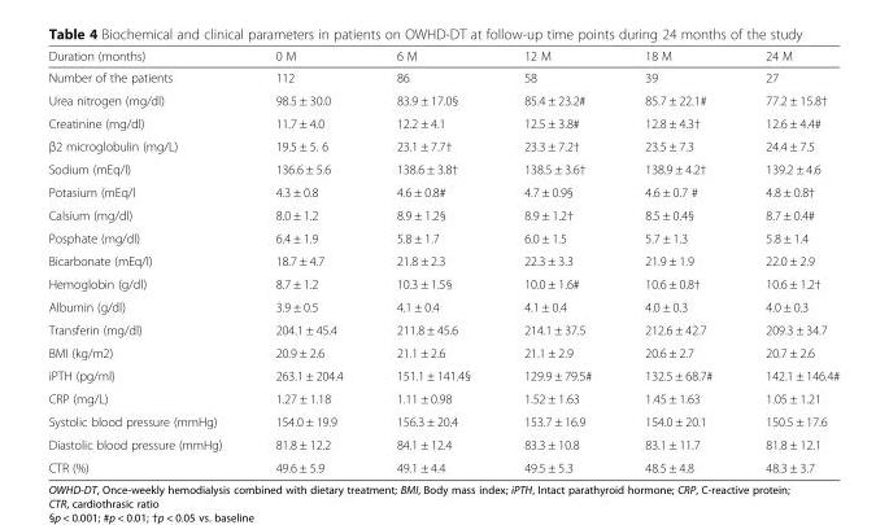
<table><thead><tr><td>Duration (months)</td><td>0 M</td><td>6 M</td><td>12 M</td><td>18 M</td><td>24 M</td></tr></thead><tbody><tr><td>Number of the patients</td><td>112</td><td>86</td><td>58</td><td>39</td><td>27</td></tr><tr><td>Urea nitrogen (mg/dl)</td><td>98.5 ± 30.0</td><td>83.9 ± 17.0§</td><td>85.4 ± 23.2#</td><td>85.7 ± 22.1#</td><td>77.2 ± 15.8†</td></tr><tr><td>Creatinine (mg/dl)</td><td>11.7 ± 4.0</td><td>12.2 ± 4.1</td><td>12.5 ± 3.8#</td><td>12.8 ± 4.3†</td><td>12.6 ± 4.4#</td></tr><tr><td>β2 microglobulin (mg/L)</td><td>19.5 ± 5. 6</td><td>23.1 ± 7.7†</td><td>23.3 ± 7.2†</td><td>23.5 ± 7.3</td><td>24.4 ± 7.5</td></tr><tr><td>Sodium (mEq/l)</td><td>136.6 ± 5.6</td><td>138.6 ± 3.8†</td><td>138.5 ± 3.6†</td><td>138.9 ± 4.2†</td><td>139.2 ± 4.6</td></tr><tr><td>Potasium (mEq/l</td><td>4.3 ± 0.8</td><td>4.6 ± 0.8#</td><td>4.7 ± 0.9§</td><td>4.6 ± 0.7 #</td><td>4.8 ± 0.8†</td></tr><tr><td>Calsium (mg/dl)</td><td>8.0 ± 1.2</td><td>8.9 ± 1.2§</td><td>8.9 ± 1.2†</td><td>8.5 ± 0.4§</td><td>8.7 ± 0.4#</td></tr><tr><td>Posphate (mg/dl)</td><td>6.4 ± 1.9</td><td>5.8 ± 1.7</td><td>6.0 ± 1.5</td><td>5.7 ± 1.3</td><td>5.8 ± 1.4</td></tr><tr><td>Bicarbonate (mEq/l)</td><td>18.7 ± 4.7</td><td>21.8 ± 2.3</td><td>22.3 ± 3.3</td><td>21.9 ± 1.9</td><td>22.0 ± 2.9</td></tr><tr><td>Hemoglobin (g/dl)</td><td>8.7 ± 1.2</td><td>10.3 ± 1.5§</td><td>10.0 ± 1.6#</td><td>10.6 ± 0.8†</td><td>10.6 ± 1.2†</td></tr><tr><td>Albumin (g/dl)</td><td>3.9 ± 0.5</td><td>4.1 ± 0.4</td><td>4.1 ± 0.4</td><td>4.0 ± 0.3</td><td>4.0 ± 0.3</td></tr><tr><td>Transferin (mg/dl)</td><td>204.1 ± 45.4</td><td>211.8 ± 45.6</td><td>214.1 ± 37.5</td><td>212.6 ± 42.7</td><td>209.3 ± 34.7</td></tr><tr><td>BMI (kg/m2)</td><td>20.9 ± 2.6</td><td>21.1 ± 2.6</td><td>21.1 ± 2.9</td><td>20.6 ± 2.7</td><td>20.7 ± 2.6</td></tr><tr><td>iPTH (pg/ml)</td><td>263.1 ± 204.4</td><td>151.1 ± 141.4§</td><td>129.9 ± 79.5#</td><td>132.5 ± 68.7#</td><td>142.1 ± 146.4#</td></tr><tr><td>CRP (mg/L)</td><td>1.27 ± 1.18</td><td>1.11 ± 0.98</td><td>1.52 ± 1.63</td><td>1.45 ± 1.63</td><td>1.05 ± 1.21</td></tr><tr><td>Systolic blood pressure (mmHg)</td><td>154.0 ± 19.9</td><td>156.3 ± 20.4</td><td>153.7 ± 16.9</td><td>154.0 ± 20.1</td><td>150.5 ± 17.6</td></tr><tr><td>Diastolic blood pressure (mmHg)</td><td>81.8 ± 12.2</td><td>84.1 ± 12.4</td><td>83.3 ± 10.8</td><td>83.1 ± 11.7</td><td>81.8 ± 12.1</td></tr><tr><td>CTR (%)</td><td>49.6 ± 5.9</td><td>49.1 ± 4.4</td><td>49.5 ± 5.3</td><td>48.5 ± 4.8</td><td>48.3 ± 3.7</td></tr></tbody></table>